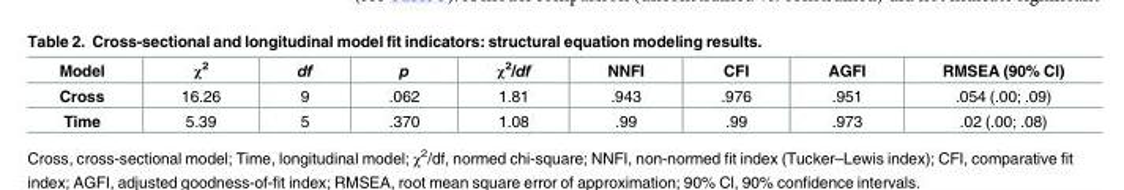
<table><thead><tr><td>Model</td><td>χ<sup>2</sup></td><td>df</td><td>p</td><td>χ<sup>2</sup>/df</td><td>NNFI</td><td>CFI</td><td>AGFI</td><td>RMSEA (90% Cl)</td></tr></thead><tbody><tr><td>Cross</td><td>16.26</td><td>9</td><td>.062</td><td>1.81</td><td>.943</td><td>.976</td><td>.951</td><td>.054 (.00; .09)</td></tr><tr><td>Time</td><td>5.39</td><td>5</td><td>.370</td><td>1.08</td><td>.99</td><td>.99</td><td>.973</td><td>.02 (.00; .08)</td></tr></tbody></table>